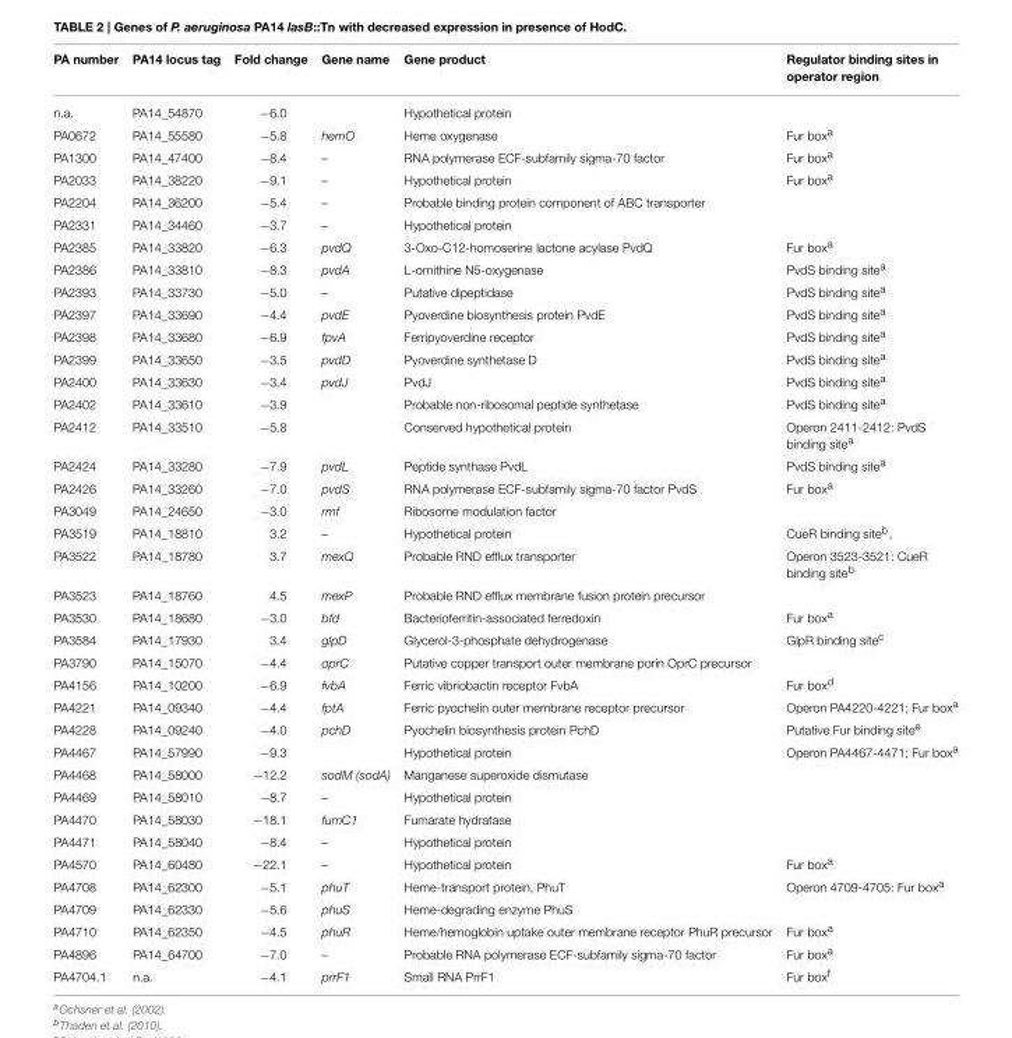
<table><thead><tr><td>PA number</td><td>PA14 locus tag</td><td>Fold change</td><td>Gene name</td><td>Gene product</td><td>Regulator binding sites in operator region</td></tr></thead><tbody><tr><td>n.a.</td><td>PA14_54870</td><td>−6.0</td><td></td><td>Hypothetical protein</td><td></td></tr><tr><td>PA0672</td><td>PA14_55580</td><td>−5.8</td><td>hemO</td><td>Heme oxygenase</td><td>Fur box<sup>a</sup></td></tr><tr><td>PA1300</td><td>PA14_47400</td><td>−8.4</td><td>–</td><td>RNA polymerase ECF-subfamily sigma-70 factor</td><td>Fur box<sup>a</sup></td></tr><tr><td>PA2033</td><td>PA14_38220</td><td>−9.1</td><td>–</td><td>Hypothetical protein</td><td>Fur box<sup>a</sup></td></tr><tr><td>PA2204</td><td>PA14_36200</td><td>−5.4</td><td>–</td><td>Probable binding protein component of ABC transporter</td><td></td></tr><tr><td>PA2331</td><td>PA14_34460</td><td>−3.7</td><td>–</td><td>Hypothetical protein</td><td></td></tr><tr><td>PA2385</td><td>PA14_33820</td><td>−6.3</td><td>pvdQ</td><td>3-Oxo-C12-homoserine lactone acylase PvdQ</td><td>Fur box<sup>a</sup></td></tr><tr><td>PA2386</td><td>PA14_33810</td><td>−8.3</td><td>pvdA</td><td>L-ornithine N5-oxygenase</td><td>PvdS binding site<sup>a</sup></td></tr><tr><td>PA2393</td><td>PA14_33730</td><td>−5.0</td><td>–</td><td>Putative dipeptidase</td><td>PvdS binding site<sup>a</sup></td></tr><tr><td>PA2397</td><td>PA14_33690</td><td>−4.4</td><td>pvdE</td><td>Pyoverdine biosynthesis protein PvdE</td><td>PvdS binding site<sup>a</sup></td></tr><tr><td>PA2398</td><td>PA14_33680</td><td>−6.9</td><td>fpvA</td><td>Ferripyoverdine receptor</td><td>PvdS binding site<sup>a</sup></td></tr><tr><td>PA2399</td><td>PA14_33650</td><td>−3.5</td><td>pvdD</td><td>Pyoverdine synthetase D</td><td>PvdS binding site<sup>a</sup></td></tr><tr><td>PA2400</td><td>PA14_33630</td><td>−3.4</td><td>pvdJ</td><td>PvdJ</td><td>PvdS binding site<sup>a</sup></td></tr><tr><td>PA2402</td><td>PA14_33610</td><td>−3.9</td><td></td><td>Probable non-ribosomal peptide synthetase</td><td>PvdS binding site<sup>a</sup></td></tr><tr><td>PA2412</td><td>PA14_33510</td><td>−5.8</td><td></td><td>Conserved hypothetical protein</td><td>Operon 2411-2412: PvdS binding site<sup>a</sup></td></tr><tr><td>PA2424</td><td>PA14_33280</td><td>−7.9</td><td>pvdL</td><td>Peptide synthase PvdL</td><td>PvdS binding site<sup>a</sup></td></tr><tr><td>PA2426</td><td>PA14_33260</td><td>−7.0</td><td>pvdS</td><td>RNA polymerase ECF-subfamily sigma-70 factor PvdS</td><td>Fur box<sup>a</sup></td></tr><tr><td>PA3049</td><td>PA14_24650</td><td>−3.0</td><td>rmf</td><td>Ribosome modulation factor</td><td></td></tr><tr><td>PA3519</td><td>PA14_18810</td><td>3.2</td><td>–</td><td>Hypothetical protein</td><td>CueR binding site<sup>b</sup>,</td></tr><tr><td>PA3522</td><td>PA14_18780</td><td>3.7</td><td>mexQ</td><td>Probable RND efflux transporter</td><td>Operon 3523-3521: CueR binding site<sup>b</sup></td></tr><tr><td>PA3523</td><td>PA14_18760</td><td>4.5</td><td>mexP</td><td>Probable RND efflux membrane fusion protein precursor</td><td></td></tr><tr><td>PA3530</td><td>PA14_18680</td><td>−3.0</td><td>bfd</td><td>Bacterioferritin-associated ferredoxin</td><td>Fur box<sup>a</sup></td></tr><tr><td>PA3584</td><td>PA14_17930</td><td>3.4</td><td>glpD</td><td>Glycerol-3-phosphate dehydrogenase</td><td>GlpR binding site<sup>c</sup></td></tr><tr><td>PA3790</td><td>PA14_15070</td><td>−4.4</td><td>oprC</td><td>Putative copper transport outer membrane porin OprC precursor</td><td></td></tr><tr><td>PA4156</td><td>PA14_10200</td><td>−6.9</td><td>fvbA</td><td>Ferric vibriobactin receptor FvbA</td><td>Fur box<sup>d</sup></td></tr><tr><td>PA4221</td><td>PA14_09340</td><td>−4.4</td><td>fptA</td><td>Ferric pyochelin outer membrane receptor precursor</td><td>Operon PA4220-4221; Fur box<sup>a</sup></td></tr><tr><td>PA4228</td><td>PA14_09240</td><td>−4.0</td><td>pchD</td><td>Pyochelin biosynthesis protein PchD</td><td>Putative Fur binding site<sup>e</sup></td></tr><tr><td>PA4467</td><td>PA14_57990</td><td>−9.3</td><td></td><td>Hypothetical protein</td><td>Operon PA4467-4471; Fur box<sup>a</sup></td></tr><tr><td>PA4468</td><td>PA14_58000</td><td>−12.2</td><td>sodM (sodA)</td><td>Manganese superoxide dismutase</td><td></td></tr><tr><td>PA4469</td><td>PA14_58010</td><td>−8.7</td><td>–</td><td>Hypothetical protein</td><td></td></tr><tr><td>PA4470</td><td>PA14_58030</td><td>−18.1</td><td>fumC1</td><td>Fumarate hydratase</td><td></td></tr><tr><td>PA4471</td><td>PA14_58040</td><td>−8.4</td><td>–</td><td>Hypothetical protein</td><td></td></tr><tr><td>PA4570</td><td>PA14_60480</td><td>−22.1</td><td>–</td><td>Hypothetical protein</td><td>Fur box<sup>a</sup></td></tr><tr><td>PA4708</td><td>PA14_62300</td><td>−5.1</td><td>phuT</td><td>Heme-transport protein, PhuT</td><td>Operon 4709-4705: Fur box<sup>a</sup></td></tr><tr><td>PA4709</td><td>PA14_62330</td><td>−5.6</td><td>phuS</td><td>Heme-degrading enzyme PhuS</td><td></td></tr><tr><td>PA4710</td><td>PA14_62350</td><td>−4.5</td><td>phuR</td><td>Heme/hemoglobin uptake outer membrane receptor PhuR precursor</td><td>Fur box<sup>a</sup></td></tr><tr><td>PA4896</td><td>PA14_64700</td><td>−7.0</td><td>–</td><td>Probable RNA polymerase ECF-subfamily sigma-70 factor</td><td>Fur box<sup>a</sup></td></tr><tr><td>PA4704.1</td><td>n.a.</td><td>−4.1</td><td>prrF1</td><td>Small RNA PrrF1</td><td>Fur box<sup>f</sup></td></tr></tbody></table>